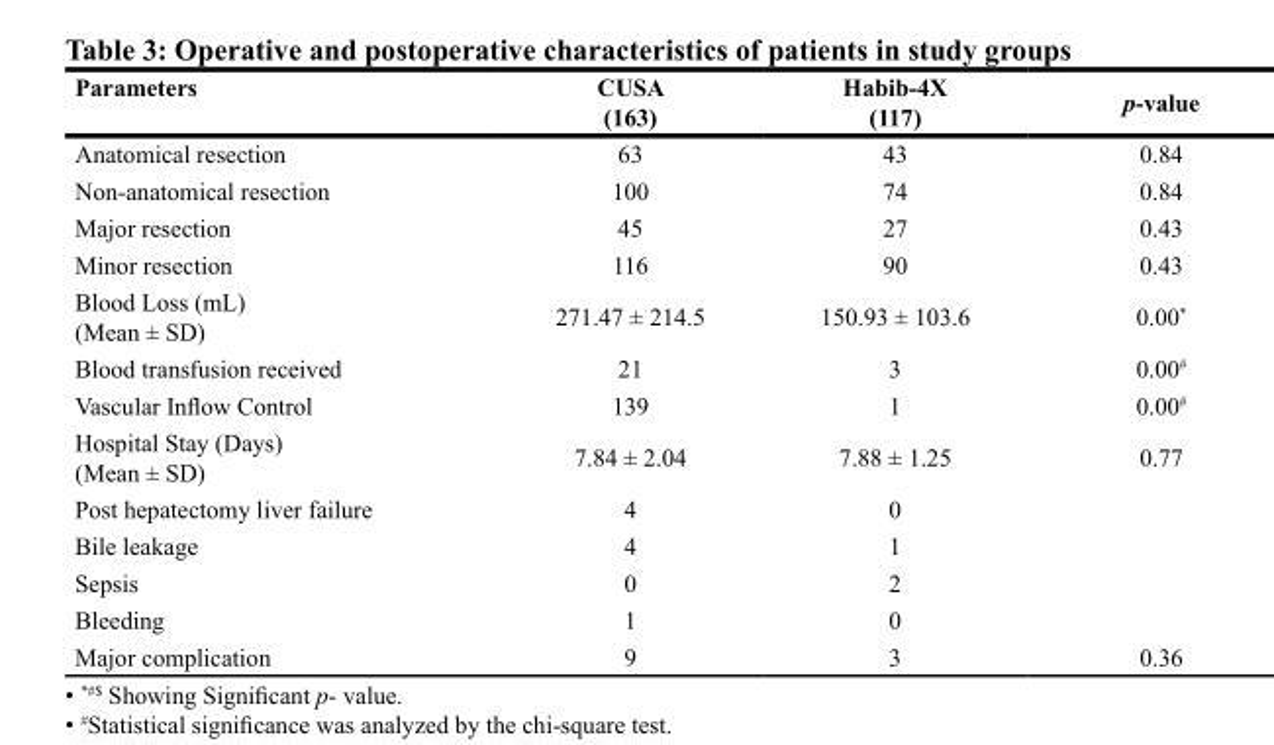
<table><thead><tr><td>Parameters</td><td>CUSA (163)</td><td>Habib-4X (117)</td><td>p-value</td></tr></thead><tbody><tr><td>Anatomical resection</td><td>63</td><td>43</td><td>0.84</td></tr><tr><td>Non-anatomical resection</td><td>100</td><td>74</td><td>0.84</td></tr><tr><td>Major resection</td><td>45</td><td>27</td><td>0.43</td></tr><tr><td>Minor resection</td><td>116</td><td>90</td><td>0.43</td></tr><tr><td>Blood Loss (mL) (Mean ± SD)</td><td>271.47 ± 214.5</td><td>150.93 ± 103.6</td><td>0.00*</td></tr><tr><td>Blood transfusion received</td><td>21</td><td>3</td><td>0.00<sup>#</sup></td></tr><tr><td>Vascular Inflow Control</td><td>139</td><td>1</td><td>0.00<sup>#</sup></td></tr><tr><td>Hospital Stay (Days) (Mean ± SD)</td><td>7.84 ± 2.04</td><td>7.88 ± 1.25</td><td>0.77</td></tr><tr><td>Post hepatectomy liver failure</td><td>4</td><td>0</td><td></td></tr><tr><td>Bile leakage</td><td>4</td><td>1</td><td></td></tr><tr><td>Sepsis</td><td>0</td><td>2</td><td></td></tr><tr><td>Bleeding</td><td>1</td><td>0</td><td></td></tr><tr><td>Major complication</td><td>9</td><td>3</td><td>0.36</td></tr></tbody></table>